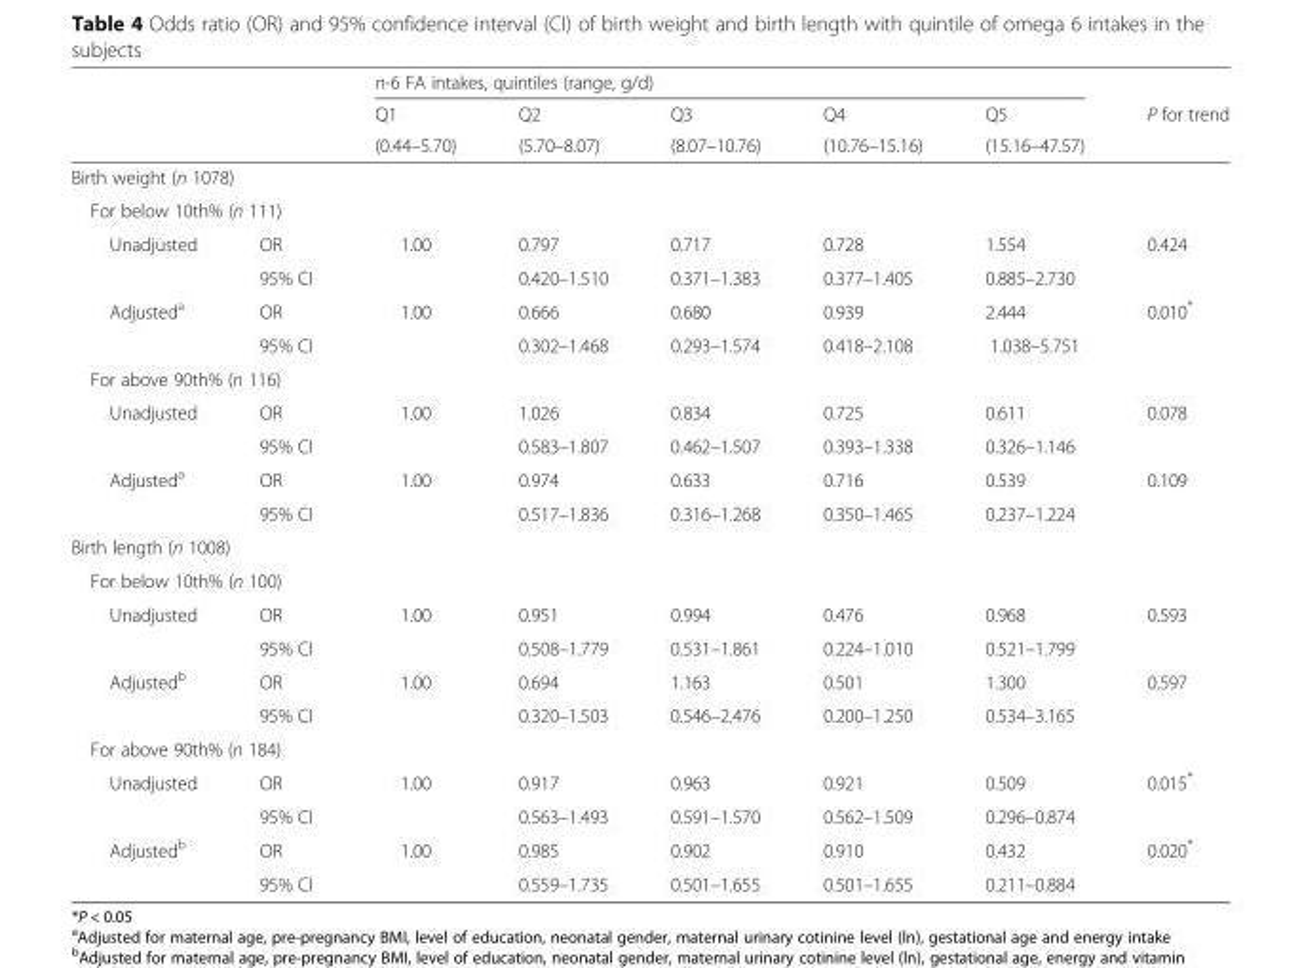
<table><thead><tr><td rowspan="3"></td><td rowspan="3"></td><td colspan="5">n-6 FA intakes, quintiles (range, g/d)</td><td rowspan="3">P for trend</td></tr><tr><td rowspan="2">Q1 (0.44–5.70)</td><td rowspan="2">Q2 (5.70–8.07)</td><td rowspan="2">Q3 (8.07–10.76)</td><td rowspan="2">Q4 (10.76–15.16)</td><td rowspan="2">Q5 (15.16–47.57)</td></tr><tr></tr></thead><tbody><tr><td colspan="8">Birth weight (n 1078)</td></tr><tr><td colspan="8">For below 10th% (n 111)</td></tr><tr><td rowspan="2">Unadjusted</td><td>OR</td><td>1.00</td><td>0.797</td><td>0.717</td><td>0.728</td><td>1.554</td><td>0.424</td></tr><tr><td>95% CI</td><td></td><td>0.420–1.510</td><td>0.371–1.383</td><td>0.377–1.405</td><td>0.885–2.730</td><td></td></tr><tr><td rowspan="2">Adjusted<sup>a</sup></td><td>OR</td><td>1.00</td><td>0.666</td><td>0.680</td><td>0.939</td><td>2.444</td><td>0.010*</td></tr><tr><td>95% CI</td><td></td><td>0.302–1.468</td><td>0.293–1.574</td><td>0.418–2.108</td><td>1.038–5.751</td><td></td></tr><tr><td colspan="8">For above 90th% (n 116)</td></tr><tr><td rowspan="2">Unadjusted</td><td>OR</td><td>1.00</td><td>1.026</td><td>0.834</td><td>0.725</td><td>0.611</td><td>0.078</td></tr><tr><td>95% CI</td><td></td><td>0.583–1.807</td><td>0.462–1.507</td><td>0.393–1.338</td><td>0.326–1.146</td><td></td></tr><tr><td rowspan="2">Adjusted<sup>a</sup></td><td>OR</td><td>1.00</td><td>0.974</td><td>0.633</td><td>0.716</td><td>0.539</td><td>0.109</td></tr><tr><td>95% CI</td><td></td><td>0.517–1.836</td><td>0.316–1.268</td><td>0.350–1.465</td><td>0.237–1.224</td><td></td></tr><tr><td colspan="8">Birth length (n 1008)</td></tr><tr><td colspan="8">For below 10th% (n 100)</td></tr><tr><td rowspan="2">Unadjusted</td><td>OR</td><td>1.00</td><td>0.951</td><td>0.994</td><td>0.476</td><td>0.968</td><td>0.593</td></tr><tr><td>95% CI</td><td></td><td>0.508–1.779</td><td>0.531–1.861</td><td>0.224–1.010</td><td>0.521–1.799</td><td></td></tr><tr><td rowspan="2">Adjusted<sup>b</sup></td><td>OR</td><td>1.00</td><td>0.694</td><td>1.163</td><td>0.501</td><td>1.300</td><td>0.597</td></tr><tr><td>95% CI</td><td></td><td>0.320–1.503</td><td>0.546–2.476</td><td>0.200–1.250</td><td>0.534–3.165</td><td></td></tr><tr><td colspan="8">For above 90th% (n 184)</td></tr><tr><td rowspan="2">Unadjusted</td><td>OR</td><td>1.00</td><td>0.917</td><td>0.963</td><td>0.921</td><td>0.509</td><td>0.015*</td></tr><tr><td>95% CI</td><td></td><td>0.563–1.493</td><td>0.591–1.570</td><td>0.562–1.509</td><td>0.296–0.874</td><td></td></tr><tr><td rowspan="2">Adjusted<sup>b</sup></td><td>OR</td><td>1.00</td><td>0.985</td><td>0.902</td><td>0.910</td><td>0.432</td><td>0.020*</td></tr><tr><td>95% CI</td><td></td><td>0.559–1.735</td><td>0.501–1.655</td><td>0.501–1.655</td><td>0.211–0.884</td><td></td></tr></tbody></table>